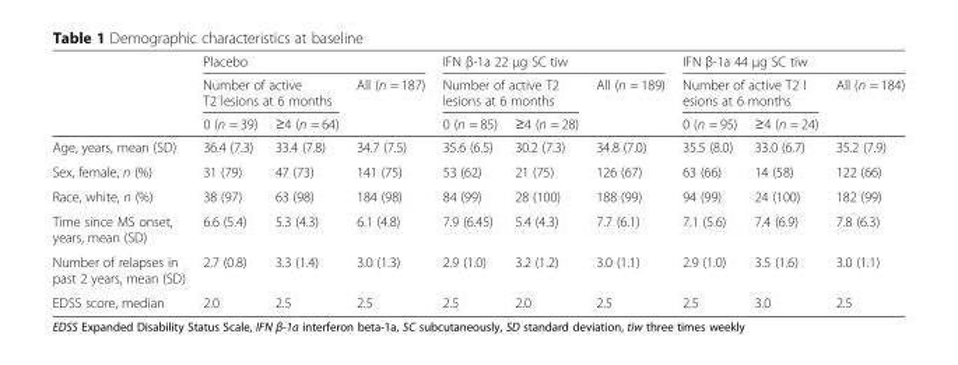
<table><thead><tr><td rowspan="3"></td><td colspan="3">Placebo</td><td colspan="3">IFN β-1a 22 μg SC tiw</td><td colspan="3">IFN β-1a 44 μg SC tiw</td></tr><tr><td colspan="2">Number of active T2 lesions at 6 months</td><td rowspan="2">All (n = 187)</td><td colspan="2">Number of active T2 lesions at 6 months</td><td rowspan="2">All (n = 189)</td><td colspan="2">Number of active T2 l esions at 6 months</td><td rowspan="2">All (n = 184)</td></tr><tr><td>0 (n = 39)</td><td>≥4 (n = 64)</td><td>0 (n = 85)</td><td>≥4 (n = 28)</td><td>0 (n = 95)</td><td>≥4 (n = 24)</td></tr></thead><tbody><tr><td>Age, years, mean (SD)</td><td>36.4 (7.3)</td><td>33.4 (7.8)</td><td>34.7 (7.5)</td><td>35.6 (6.5)</td><td>30.2 (7.3)</td><td>34.8 (7.0)</td><td>35.5 (8.0)</td><td>33.0 (6.7)</td><td>35.2 (7.9)</td></tr><tr><td>Sex, female, n (%)</td><td>31 (79)</td><td>47 (73)</td><td>141 (75)</td><td>53 (62)</td><td>21 (75)</td><td>126 (67)</td><td>63 (66)</td><td>14 (58)</td><td>122 (66)</td></tr><tr><td>Race, white, n (%)</td><td>38 (97)</td><td>63 (98)</td><td>184 (98)</td><td>84 (99)</td><td>28 (100)</td><td>188 (99)</td><td>94 (99)</td><td>24 (100)</td><td>182 (99)</td></tr><tr><td>Time since MS onset, years, mean (SD)</td><td>6.6 (5.4)</td><td>5.3 (4.3)</td><td>6.1 (4.8)</td><td>7.9 (6.45)</td><td>5.4 (4.3)</td><td>7.7 (6.1)</td><td>7.1 (5.6)</td><td>7.4 (6.9)</td><td>7.8 (6.3)</td></tr><tr><td>Number of relapses in past 2 years, mean (SD)</td><td>2.7 (0.8)</td><td>3.3 (1.4)</td><td>3.0 (1.3)</td><td>2.9 (1.0)</td><td>3.2 (1.2)</td><td>3.0 (1.1)</td><td>2.9 (1.0)</td><td>3.5 (1.6)</td><td>3.0 (1.1)</td></tr><tr><td>EDSS score, median</td><td>2.0</td><td>2.5</td><td>2.5</td><td>2.5</td><td>2.0</td><td>2.5</td><td>2.5</td><td>3.0</td><td>2.5</td></tr></tbody></table>